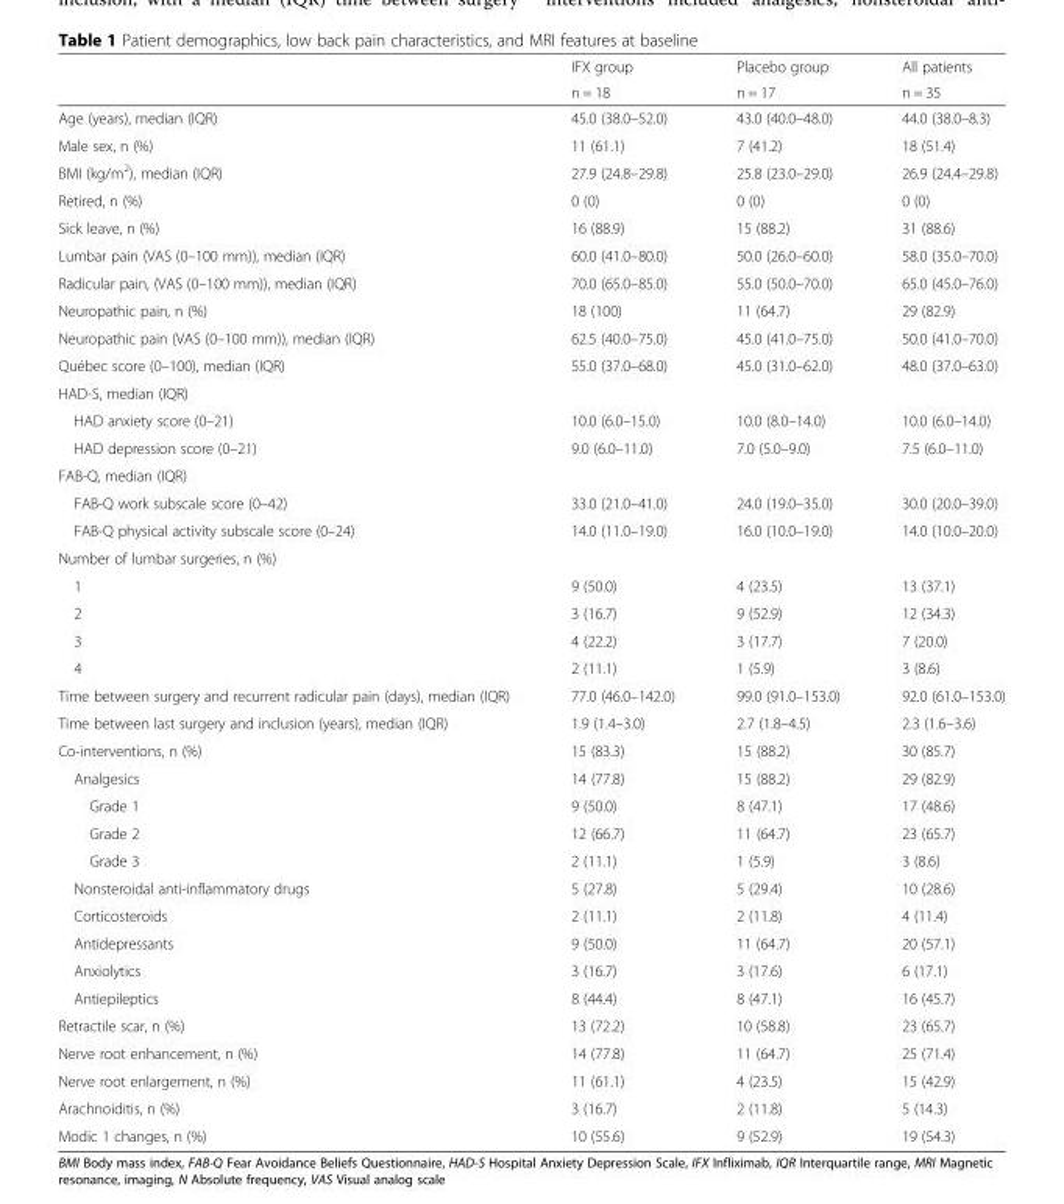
<table><thead><tr><td rowspan="2"></td><td rowspan="2">IFX group n = 18</td><td rowspan="2">Placebo group n = 17</td><td rowspan="2">All patients n = 35</td></tr><tr></tr></thead><tbody><tr><td>Age (years), median (IQR)</td><td>45.0 (38.0–52.0)</td><td>43.0 (40.0–48.0)</td><td>44.0 (38.0–8.3)</td></tr><tr><td>Male sex, n (%)</td><td>11 (61.1)</td><td>7 (41.2)</td><td>18 (51.4)</td></tr><tr><td>BMI (kg/m<sup>2</sup>), median (IQR)</td><td>27.9 (24.8–29.8)</td><td>25.8 (23.0–29.0)</td><td>26.9 (24.4–29.8)</td></tr><tr><td>Retired, n (%)</td><td>0 (0)</td><td>0 (0)</td><td>0 (0)</td></tr><tr><td>Sick leave, n (%)</td><td>16 (88.9)</td><td>15 (88.2)</td><td>31 (88.6)</td></tr><tr><td>Lumbar pain (VAS (0–100 mm)), median (IQR)</td><td>60.0 (41.0–80.0)</td><td>50.0 (26.0–60.0)</td><td>58.0 (35.0–70.0)</td></tr><tr><td>Radicular pain, (VAS (0–100 mm)), median (IQR)</td><td>70.0 (65.0–85.0)</td><td>55.0 (50.0–70.0)</td><td>65.0 (45.0–76.0)</td></tr><tr><td>Neuropathic pain, n (%)</td><td>18 (100)</td><td>11 (64.7)</td><td>29 (82.9)</td></tr><tr><td>Neuropathic pain (VAS (0–100 mm)), median (IQR)</td><td>62.5 (40.0–75.0)</td><td>45.0 (41.0–75.0)</td><td>50.0 (41.0–70.0)</td></tr><tr><td>Québec score (0–100), median (IQR)</td><td>55.0 (37.0–68.0)</td><td>45.0 (31.0–62.0)</td><td>48.0 (37.0–63.0)</td></tr><tr><td colspan="4">HAD-S, median (IQR)</td></tr><tr><td>HAD anxiety score (0–21)</td><td>10.0 (6.0–15.0)</td><td>10.0 (8.0–14.0)</td><td>10.0 (6.0–14.0)</td></tr><tr><td>HAD depression score (0–21)</td><td>9.0 (6.0–11.0)</td><td>7.0 (5.0–9.0)</td><td>7.5 (6.0–11.0)</td></tr><tr><td colspan="4">FAB-Q, median (IQR)</td></tr><tr><td>FAB-Q work subscale score (0–42)</td><td>33.0 (21.0–41.0)</td><td>24.0 (19.0–35.0)</td><td>30.0 (20.0–39.0)</td></tr><tr><td>FAB-Q physical activity subscale score (0–24)</td><td>14.0 (11.0–19.0)</td><td>16.0 (10.0–19.0)</td><td>14.0 (10.0–20.0)</td></tr><tr><td colspan="4">Number of lumbar surgeries, n (%)</td></tr><tr><td>1</td><td>9 (50.0)</td><td>4 (23.5)</td><td>13 (37.1)</td></tr><tr><td>2</td><td>3 (16.7)</td><td>9 (52.9)</td><td>12 (34.3)</td></tr><tr><td>3</td><td>4 (22.2)</td><td>3 (17.7)</td><td>7 (20.0)</td></tr><tr><td>4</td><td>2 (11.1)</td><td>1 (5.9)</td><td>3 (8.6)</td></tr><tr><td>Time between surgery and recurrent radicular pain (days), median (IQR)</td><td>77.0 (46.0–142.0)</td><td>99.0 (91.0–153.0)</td><td>92.0 (61.0–153.0)</td></tr><tr><td>Time between last surgery and inclusion (years), median (IQR)</td><td>1.9 (1.4–3.0)</td><td>2.7 (1.8–4.5)</td><td>2.3 (1.6–3.6)</td></tr><tr><td>Co-interventions, n (%)</td><td>15 (83.3)</td><td>15 (88.2)</td><td>30 (85.7)</td></tr><tr><td>Analgesics</td><td>14 (77.8)</td><td>15 (88.2)</td><td>29 (82.9)</td></tr><tr><td>Grade 1</td><td>9 (50.0)</td><td>8 (47.1)</td><td>17 (48.6)</td></tr><tr><td>Grade 2</td><td>12 (66.7)</td><td>11 (64.7)</td><td>23 (65.7)</td></tr><tr><td>Grade 3</td><td>2 (11.1)</td><td>1 (5.9)</td><td>3 (8.6)</td></tr><tr><td>Nonsteroidal anti-inflammatory drugs</td><td>5 (27.8)</td><td>5 (29.4)</td><td>10 (28.6)</td></tr><tr><td>Corticosteroids</td><td>2 (11.1)</td><td>2 (11.8)</td><td>4 (11.4)</td></tr><tr><td>Antidepressants</td><td>9 (50.0)</td><td>11 (64.7)</td><td>20 (57.1)</td></tr><tr><td>Anxiolytics</td><td>3 (16.7)</td><td>3 (17.6)</td><td>6 (17.1)</td></tr><tr><td>Antiepileptics</td><td>8 (44.4)</td><td>8 (47.1)</td><td>16 (45.7)</td></tr><tr><td>Retractile scar, n (%)</td><td>13 (72.2)</td><td>10 (58.8)</td><td>23 (65.7)</td></tr><tr><td>Nerve root enhancement, n (%)</td><td>14 (77.8)</td><td>11 (64.7)</td><td>25 (71.4)</td></tr><tr><td>Nerve root enlargement, n (%)</td><td>11 (61.1)</td><td>4 (23.5)</td><td>15 (42.9)</td></tr><tr><td>Arachnoiditis, n (%)</td><td>3 (16.7)</td><td>2 (11.8)</td><td>5 (14.3)</td></tr><tr><td>Modic 1 changes, n (%)</td><td>10 (55.6)</td><td>9 (52.9)</td><td>19 (54.3)</td></tr></tbody></table>